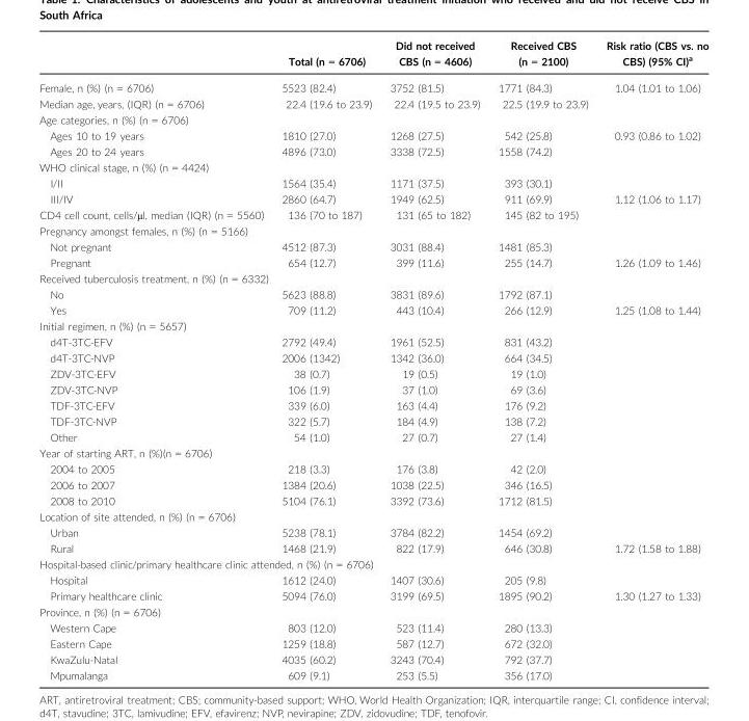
<table><thead><tr><td></td><td>Total (n = 6706)</td><td>Did not received CBS (n = 4606)</td><td>Received CBS (n = 2100)</td><td>Risk ratio (CBS vs. no CBS) (95% CI)<sup>a</sup></td></tr></thead><tbody><tr><td>Female, n (%) (n = 6706)</td><td>5523 (82.4)</td><td>3752 (81.5)</td><td>1771 (84.3)</td><td>1.04 (1.01 to 1.06)</td></tr><tr><td>Median age, years, (IQR) (n = 6706)</td><td>22.4 (19.6 to 23.9)</td><td>22.4 (19.5 to 23.9)</td><td>22.5 (19.9 to 23.9)</td><td></td></tr><tr><td colspan="5">Age categories, n (%) (n = 6706)</td></tr><tr><td>Ages 10 to 19 years</td><td>1810 (27.0)</td><td>1268 (27.5)</td><td>542 (25.8)</td><td>0.93 (0.86 to 1.02)</td></tr><tr><td>Ages 20 to 24 years</td><td>4896 (73.0)</td><td>3338 (72.5)</td><td>1558 (74.2)</td><td></td></tr><tr><td colspan="5">WHO clinical stage, n (%) (n = 4424)</td></tr><tr><td>I/II</td><td>1564 (35.4)</td><td>1171 (37.5)</td><td>393 (30.1)</td><td></td></tr><tr><td>III/IV</td><td>2860 (64.7)</td><td>1949 (62.5)</td><td>911 (69.9)</td><td>1.12 (1.06 to 1.17)</td></tr><tr><td>CD4 cell count, cells/μl, median (IQR) (n = 5560)</td><td>136 (70 to 187)</td><td>131 (65 to 182)</td><td>145 (82 to 195)</td><td></td></tr><tr><td colspan="5">Pregnancy amongst females, n (%) (n = 5166)</td></tr><tr><td>Not pregnant</td><td>4512 (87.3)</td><td>3031 (88.4)</td><td>1481 (85.3)</td><td></td></tr><tr><td>Pregnant</td><td>654 (12.7)</td><td>399 (11.6)</td><td>255 (14.7)</td><td>1.26 (1.09 to 1.46)</td></tr><tr><td colspan="5">Received tuberculosis treatment, n (%) (n = 6332)</td></tr><tr><td>No</td><td>5623 (88.8)</td><td>3831 (89.6)</td><td>1792 (87.1)</td><td></td></tr><tr><td>Yes</td><td>709 (11.2)</td><td>443 (10.4)</td><td>266 (12.9)</td><td>1.25 (1.08 to 1.44)</td></tr><tr><td colspan="5">Initial regimen, n (%) (n = 5657)</td></tr><tr><td>d4T-3TC-EFV</td><td>2792 (49.4)</td><td>1961 (52.5)</td><td>831 (43.2)</td><td></td></tr><tr><td>d4T-3TC-NVP</td><td>2006 (1342)</td><td>1342 (36.0)</td><td>664 (34.5)</td><td></td></tr><tr><td>ZDV-3TC-EFV</td><td>38 (0.7)</td><td>19 (0.5)</td><td>19 (1.0)</td><td></td></tr><tr><td>ZDV-3TC-NVP</td><td>106 (1.9)</td><td>37 (1.0)</td><td>69 (3.6)</td><td></td></tr><tr><td>TDF-3TC-EFV</td><td>339 (6.0)</td><td>163 (4.4)</td><td>176 (9.2)</td><td></td></tr><tr><td>TDF-3TC-NVP</td><td>322 (5.7)</td><td>184 (4.9)</td><td>138 (7.2)</td><td></td></tr><tr><td>Other</td><td>54 (1.0)</td><td>27 (0.7)</td><td>27 (1.4)</td><td></td></tr><tr><td colspan="5">Year of starting ART, n (%)(n = 6706)</td></tr><tr><td>2004 to 2005</td><td>218 (3.3)</td><td>176 (3.8)</td><td>42 (2.0)</td><td></td></tr><tr><td>2006 to 2007</td><td>1384 (20.6)</td><td>1038 (22.5)</td><td>346 (16.5)</td><td></td></tr><tr><td>2008 to 2010</td><td>5104 (76.1)</td><td>3392 (73.6)</td><td>1712 (81.5)</td><td></td></tr><tr><td colspan="5">Location of site attended, n (%) (n = 6706)</td></tr><tr><td>Urban</td><td>5238 (78.1)</td><td>3784 (82.2)</td><td>1454 (69.2)</td><td></td></tr><tr><td>Rural</td><td>1468 (21.9)</td><td>822 (17.9)</td><td>646 (30.8)</td><td>1.72 (1.58 to 1.88)</td></tr><tr><td colspan="5">Hospital-based clinic/primary healthcare clinic attended, n (%) (n = 6706)</td></tr><tr><td>Hospital</td><td>1612 (24.0)</td><td>1407 (30.6)</td><td>205 (9.8)</td><td></td></tr><tr><td>Primary healthcare clinic</td><td>5094 (76.0)</td><td>3199 (69.5)</td><td>1895 (90.2)</td><td>1.30 (1.27 to 1.33)</td></tr><tr><td colspan="5">Province, n (%) (n = 6706)</td></tr><tr><td>Western Cape</td><td>803 (12.0)</td><td>523 (11.4)</td><td>280 (13.3)</td><td></td></tr><tr><td>Eastern Cape</td><td>1259 (18.8)</td><td>587 (12.7)</td><td>672 (32.0)</td><td></td></tr><tr><td>KwaZulu-Natal</td><td>4035 (60.2)</td><td>3243 (70.4)</td><td>792 (37.7)</td><td></td></tr><tr><td>Mpumalanga</td><td>609 (9.1)</td><td>253 (5.5)</td><td>356 (17.0)</td><td></td></tr></tbody></table>